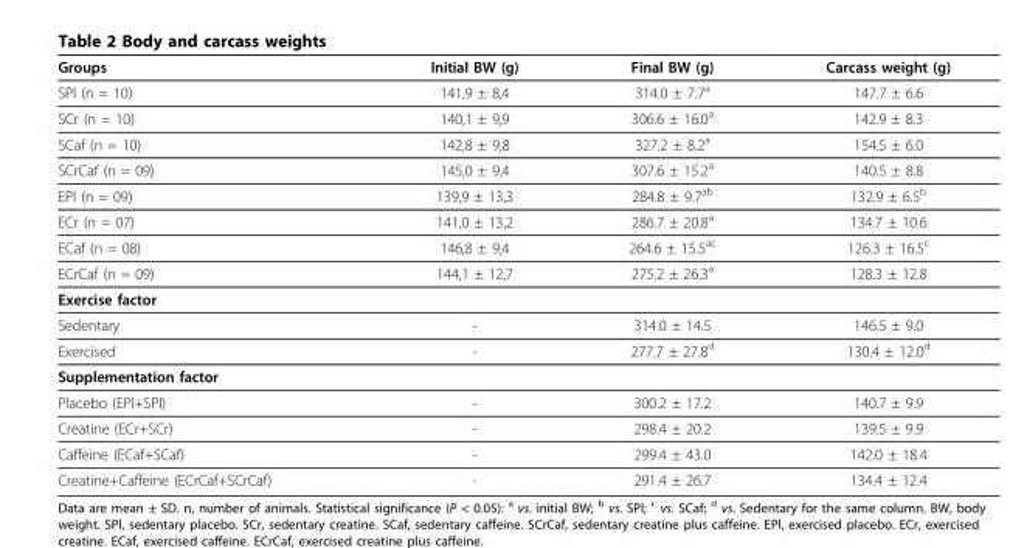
<table><thead><tr><td>Groups</td><td>Initial BW (g)</td><td>Final BW (g)</td><td>Carcass weight (g)</td></tr></thead><tbody><tr><td>SPl (n = 10)</td><td>141,9 ± 8,4</td><td>314.0 ± 7.7a</td><td>147.7 ± 6.6</td></tr><tr><td>SCr (n = 10)</td><td>140,1 ± 9,9</td><td>306.6 ± 16.0a</td><td>142.9 ± 8.3</td></tr><tr><td>SCaf (n = 10)</td><td>142,8 ± 9,8</td><td>327.2 ± 8.2a</td><td>154.5 ± 6.0</td></tr><tr><td>SCrCaf (n = 09)</td><td>145,0 ± 9,4</td><td>307.6 ± 15.2a</td><td>140.5 ± 8.8</td></tr><tr><td>EPl (n = 09)</td><td>139,9 ± 13,3</td><td>284.8 ± 9.7ab</td><td>132.9 ± 6.5b</td></tr><tr><td>ECr (n = 07)</td><td>141,0 ± 13,2</td><td>286.7 ± 20.8a</td><td>134.7 ± 10.6</td></tr><tr><td>ECaf (n = 08)</td><td>146,8 ± 9,4</td><td>264.6 ± 15.5ac</td><td>126.3 ± 16.5c</td></tr><tr><td>ECrCaf (n = 09)</td><td>144,1 ± 12,7</td><td>275.2 ± 26.3a</td><td>128.3 ± 12.8</td></tr><tr><td colspan="4">Exercise factor</td></tr><tr><td>Sedentary</td><td>-</td><td>314.0 ± 14.5</td><td>146.5 ± 9.0</td></tr><tr><td>Exercised</td><td>-</td><td>277.7 ± 27.8<sup>d</sup></td><td>130.4 ± 12.0<sup>d</sup></td></tr><tr><td colspan="4">Supplementation factor</td></tr><tr><td>Placebo (EPl+SPl)</td><td>-</td><td>300.2 ± 17.2</td><td>140.7 ± 9.9</td></tr><tr><td>Creatine (ECr+SCr)</td><td>-</td><td>298.4 ± 20.2</td><td>139.5 ± 9.9</td></tr><tr><td>Caffeine (ECaf+SCaf)</td><td>-</td><td>299.4 ± 43.0</td><td>142.0 ± 18.4</td></tr><tr><td>Creatine+Caffeine (ECrCaf+SCrCaf)</td><td>-</td><td>291.4 ± 26.7</td><td>134.4 ± 12.4</td></tr></tbody></table>